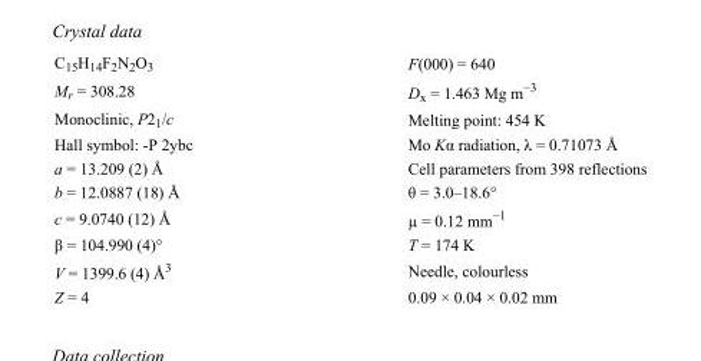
<table><tbody><tr><td>C<sub>15</sub>H<sub>14</sub>F<sub>2</sub>N<sub>2</sub>O<sub>3</sub></td><td>F(000) = 640</td></tr><tr><td>M<sub>r</sub> = 308.28</td><td>D<sub>x</sub> = 1.463 Mg m<sup>−3</sup></td></tr><tr><td>Monoclinic, P2<sub>1</sub>/c</td><td>Melting point: 454 K</td></tr><tr><td>Hall symbol: -P 2ybc</td><td>Mo Kα radiation, λ = 0.71073 Å</td></tr><tr><td>a = 13.209 (2) Å</td><td>Cell parameters from 398 reflections</td></tr><tr><td>b = 12.0887 (18) Å</td><td>θ = 3.0–18.6°</td></tr><tr><td>c = 9.0740 (12) Å</td><td>µ = 0.12 mm<sup>−1</sup></td></tr><tr><td>β = 104.990 (4)°</td><td>T = 174 K</td></tr><tr><td>V = 1399.6 (4) Å<sup>3</sup></td><td>Needle, colourless</td></tr><tr><td>Z = 4</td><td>0.09 × 0.04 × 0.02 mm</td></tr></tbody></table>